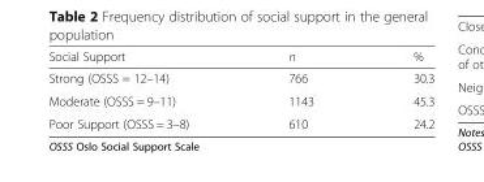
<table><thead><tr><td>Social Support</td><td>n</td><td>%</td></tr></thead><tbody><tr><td>Strong (OSSS = 12–14)</td><td>766</td><td>30.3</td></tr><tr><td>Moderate (OSSS = 9–11)</td><td>1143</td><td>45.3</td></tr><tr><td>Poor Support (OSSS = 3–8)</td><td>610</td><td>24.2</td></tr></tbody></table>